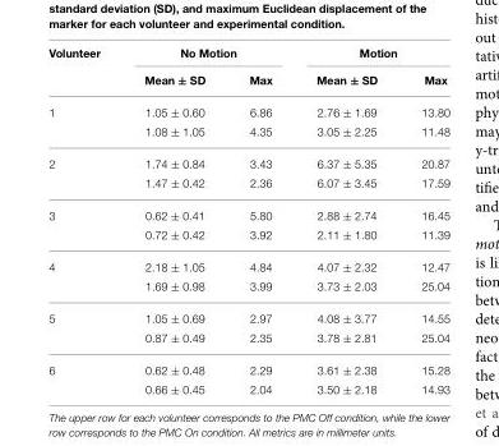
<table><thead><tr><td rowspan="2">Volunteer</td><td colspan="2">No Motion</td><td colspan="2">Motion</td></tr><tr><td>Mean ± SD</td><td>Max</td><td>Mean ± SD</td><td>Max</td></tr></thead><tbody><tr><td rowspan="2">1</td><td>1.05 ± 0.60</td><td>6.86</td><td>2.76 ± 1.69</td><td>13.80</td></tr><tr><td>1.08 ± 1.05</td><td>4.35</td><td>3.05 ± 2.25</td><td>11.48</td></tr><tr><td rowspan="2">2</td><td>1.74 ± 0.84</td><td>3.43</td><td>6.37 ± 5.35</td><td>20.87</td></tr><tr><td>1.47 ± 0.42</td><td>2.36</td><td>6.07 ± 3.45</td><td>17.59</td></tr><tr><td rowspan="2">3</td><td>0.62 ± 0.41</td><td>5.80</td><td>2.88 ± 2.74</td><td>16.45</td></tr><tr><td>0.72 ± 0.42</td><td>3.92</td><td>2.11 ± 1.80</td><td>11.39</td></tr><tr><td rowspan="2">4</td><td>2.18 ± 1.05</td><td>4.84</td><td>4.07 ± 2.32</td><td>12.47</td></tr><tr><td>1.69 ± 0.98</td><td>3.99</td><td>3.73 ± 2.03</td><td>25.04</td></tr><tr><td rowspan="2">5</td><td>1.05 ± 0.69</td><td>2.97</td><td>4.08 ± 3.77</td><td>14.55</td></tr><tr><td>0.87 ± 0.49</td><td>2.35</td><td>3.78 ± 2.81</td><td>25.04</td></tr><tr><td rowspan="2">6</td><td>0.62 ± 0.48</td><td>2.29</td><td>3.61 ± 2.38</td><td>15.28</td></tr><tr><td>0.66 ± 0.45</td><td>2.04</td><td>3.50 ± 2.18</td><td>14.93</td></tr></tbody></table>